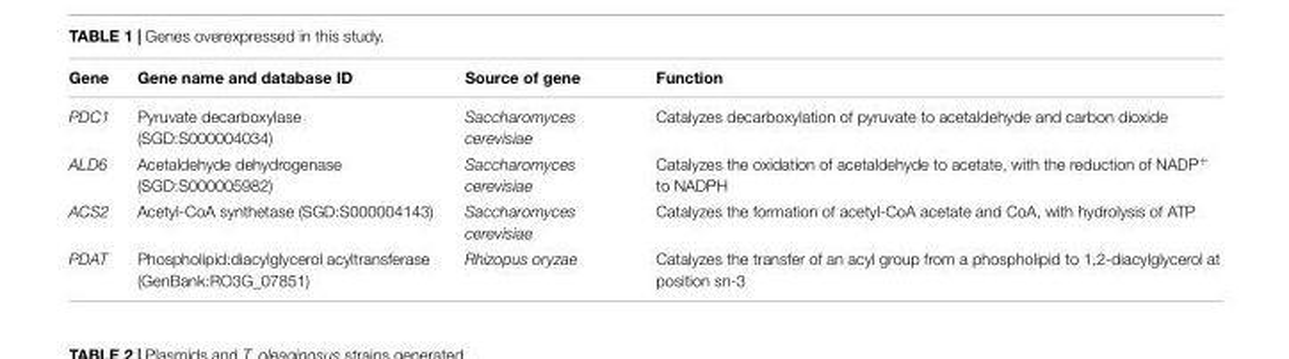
<table><thead><tr><td>Gene</td><td>Gene name and database ID</td><td>Source of gene</td><td>Function</td></tr></thead><tbody><tr><td>PDC1</td><td>Pyruvate decarboxylase (SGD:S000004034)</td><td>Saccharomyces cerevisiae</td><td>Catalyzes decarboxylation of pyruvate to acetaldehyde and carbon dioxide</td></tr><tr><td>ALD6</td><td>Acetaldehyde dehydrogenase (SGD:S000005982)</td><td>Saccharomyces cerevisiae</td><td>Catalyzes the oxidation of acetaldehyde to acetate, with the reduction of NADP<sup>+</sup> to NADPH</td></tr><tr><td>ACS2</td><td>Acetyl-CoA synthetase (SGD:S000004143)</td><td>Saccharomyces cerevisiae</td><td>Catalyzes the formation of acetyl-CoA acetate and CoA, with hydrolysis of ATP</td></tr><tr><td>PDAT</td><td>Phospholipid:diacylglycerol acyltransferase (GenBank:RO3G_07851)</td><td>Rhizopus oryzae</td><td>Catalyzes the transfer of an acyl group from a phospholipid to 1,2-diacylglycerol at position sn-3</td></tr></tbody></table>